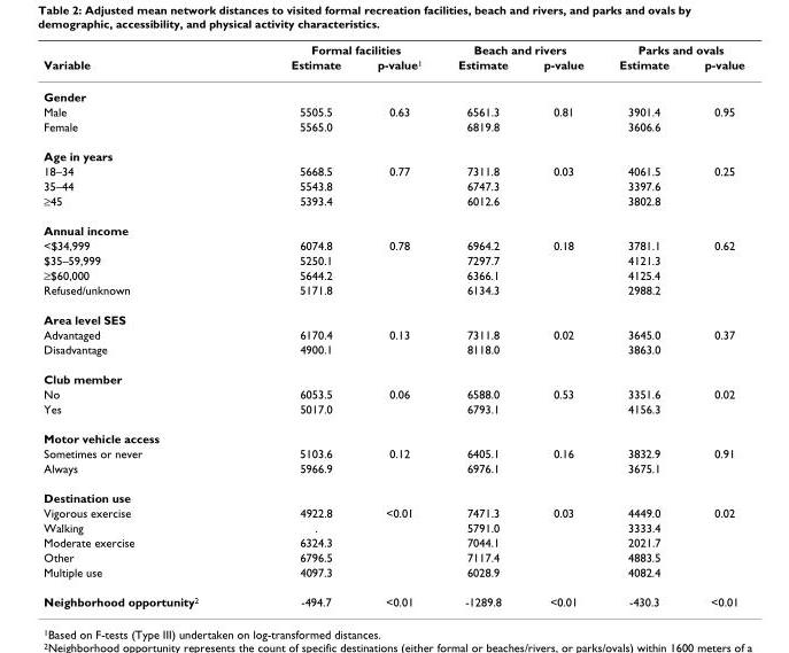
<table><thead><tr><td rowspan="2">Variable</td><td colspan="2">Formal facilities</td><td colspan="2">Beach and rivers</td><td colspan="2">Parks and ovals</td></tr><tr><td>Estimate</td><td>p-value<sup>1</sup></td><td>Estimate</td><td>p-value</td><td>Estimate</td><td>p-value</td></tr></thead><tbody><tr><td colspan="7">Gender</td></tr><tr><td>Male</td><td>5505.5</td><td>0.63</td><td>6561.3</td><td>0.81</td><td>3901.4</td><td>0.95</td></tr><tr><td>Female</td><td>5565.0</td><td></td><td>6819.8</td><td></td><td>3606.6</td><td></td></tr><tr><td colspan="7">Age in years</td></tr><tr><td>18–34</td><td>5668.5</td><td>0.77</td><td>7311.8</td><td>0.03</td><td>4061.5</td><td>0.25</td></tr><tr><td>35–44</td><td>5543.8</td><td></td><td>6747.3</td><td></td><td>3397.6</td><td></td></tr><tr><td>≥45</td><td>5393.4</td><td></td><td>6012.6</td><td></td><td>3802.8</td><td></td></tr><tr><td colspan="7">Annual income</td></tr><tr><td>&lt;$34,999</td><td>6074.8</td><td>0.78</td><td>6964.2</td><td>0.18</td><td>3781.1</td><td>0.62</td></tr><tr><td>$35–59,999</td><td>5250.1</td><td></td><td>7297.7</td><td></td><td>4121.3</td><td></td></tr><tr><td>≥$60,000</td><td>5644.2</td><td></td><td>6366.1</td><td></td><td>4125.4</td><td></td></tr><tr><td>Refused/unknown</td><td>5171.8</td><td></td><td>6134.3</td><td></td><td>2988.2</td><td></td></tr><tr><td colspan="7">Area level SES</td></tr><tr><td>Advantaged</td><td>6170.4</td><td>0.13</td><td>7311.8</td><td>0.02</td><td>3645.0</td><td>0.37</td></tr><tr><td>Disadvantage</td><td>4900.1</td><td></td><td>8118.0</td><td></td><td>3863.0</td><td></td></tr><tr><td colspan="7">Club member</td></tr><tr><td>No</td><td>6053.5</td><td>0.06</td><td>6588.0</td><td>0.53</td><td>3351.6</td><td>0.02</td></tr><tr><td>Yes</td><td>5017.0</td><td></td><td>6793.1</td><td></td><td>4156.3</td><td></td></tr><tr><td colspan="7">Motor vehicle access</td></tr><tr><td>Sometimes or never</td><td>5103.6</td><td>0.12</td><td>6405.1</td><td>0.16</td><td>3832.9</td><td>0.91</td></tr><tr><td>Always</td><td>5966.9</td><td></td><td>6976.1</td><td></td><td>3675.1</td><td></td></tr><tr><td colspan="7">Destination use</td></tr><tr><td>Vigorous exercise</td><td>4922.8</td><td>&lt;0.01</td><td>7471.3</td><td>0.03</td><td>4449.0</td><td>0.02</td></tr><tr><td>Walking</td><td>.</td><td></td><td>5791.0</td><td></td><td>3333.4</td><td></td></tr><tr><td>Moderate exercise</td><td>6324.3</td><td></td><td>7044.1</td><td></td><td>2021.7</td><td></td></tr><tr><td>Other</td><td>6796.5</td><td></td><td>7117.4</td><td></td><td>4883.5</td><td></td></tr><tr><td>Multiple use</td><td>4097.3</td><td></td><td>6028.9</td><td></td><td>4082.4</td><td></td></tr><tr><td>Neighborhood opportunity<sup>2</sup></td><td>-494.7</td><td>&lt;0.01</td><td>-1289.8</td><td>&lt;0.01</td><td>-430.3</td><td>&lt;0.01</td></tr></tbody></table>